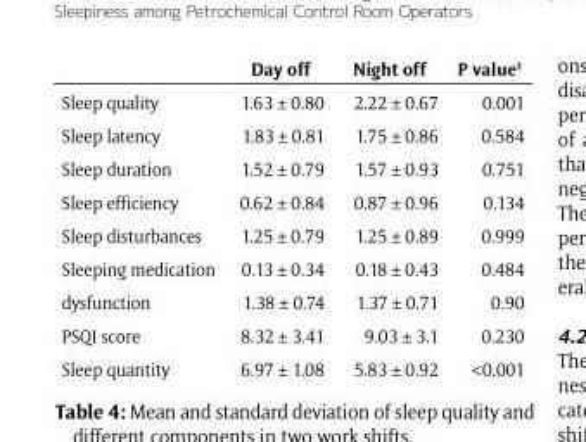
<table><thead><tr><td></td><td>Day off</td><td>Night off</td><td>P value<sup>‡</sup></td></tr></thead><tbody><tr><td>Sleep quality</td><td>1.63 ± 0.80</td><td>2.22 ± 0.67</td><td>0.001</td></tr><tr><td>Sleep latency</td><td>1.83 ± 0.81</td><td>1.75 ± 0.86</td><td>0.584</td></tr><tr><td>Sleep duration</td><td>1.52 ± 0.79</td><td>1.57 ± 0.93</td><td>0.751</td></tr><tr><td>Sleep efficiency</td><td>0.62 ± 0.84</td><td>0.87 ± 0.96</td><td>0.134</td></tr><tr><td>Sleep disturbances</td><td>1.25 ± 0.79</td><td>1.25 ± 0.89</td><td>0.999</td></tr><tr><td>Sleeping medication</td><td>0.13 ± 0.34</td><td>0.18 ± 0.43</td><td>0.484</td></tr><tr><td>dysfunction</td><td>1.38 ± 0.74</td><td>1.37 ± 0.71</td><td>0.90</td></tr><tr><td>PSQI score</td><td>8.32 ± 3.41</td><td>9.03 ± 3.1</td><td>0.230</td></tr><tr><td>Sleep quantity</td><td>6.97 ± 1.08</td><td>5.83 ± 0.92</td><td>&lt;0.001</td></tr></tbody></table>